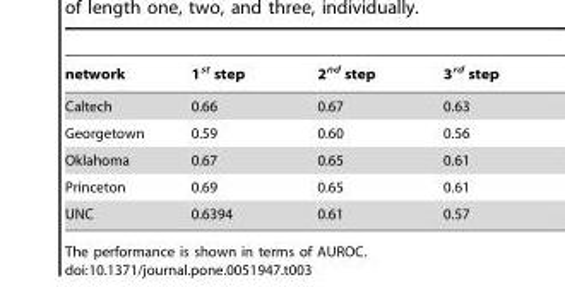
<table><thead><tr><td>network</td><td>1<sup>st</sup> step</td><td>2<sup>nd</sup> step</td><td>3<sup>rd</sup> step</td></tr></thead><tbody><tr><td>Caltech</td><td>0.66</td><td>0.67</td><td>0.63</td></tr><tr><td>Georgetown</td><td>0.59</td><td>0.60</td><td>0.56</td></tr><tr><td>Oklahoma</td><td>0.67</td><td>0.65</td><td>0.61</td></tr><tr><td>Princeton</td><td>0.69</td><td>0.65</td><td>0.61</td></tr><tr><td>UNC</td><td>0.6394</td><td>0.61</td><td>0.57</td></tr></tbody></table>